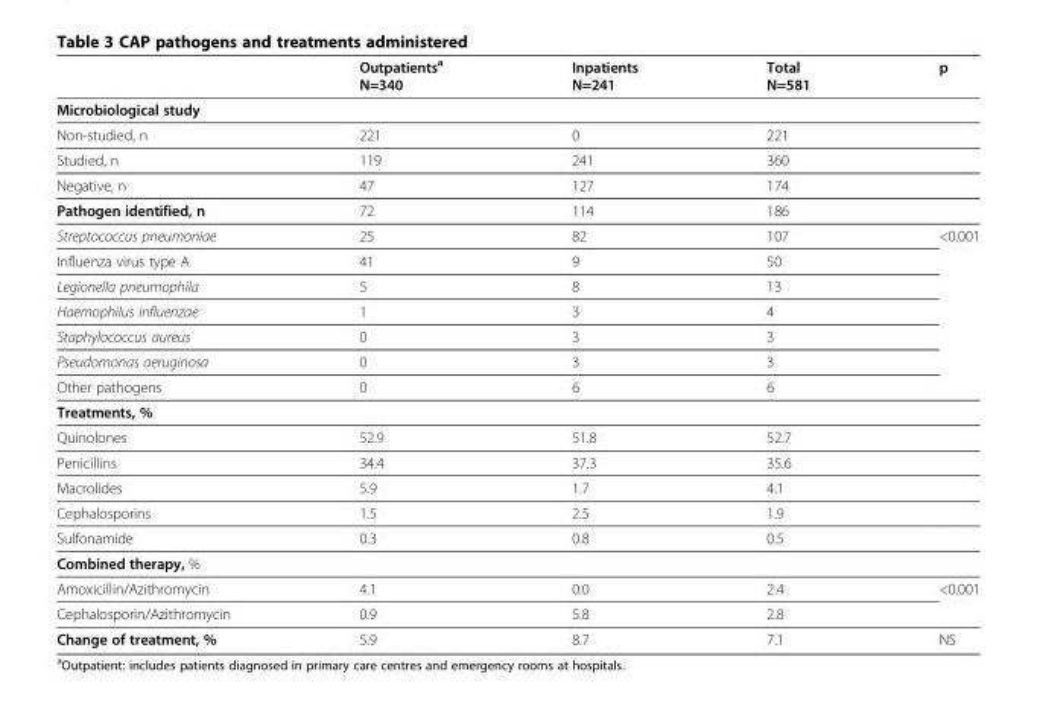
<table><thead><tr><td></td><td>Outpatients<sup>a</sup> N=340</td><td>Inpatients N=241</td><td>Total N=581</td><td>p</td></tr></thead><tbody><tr><td colspan="5">Microbiological study</td></tr><tr><td>Non-studied, n</td><td>221</td><td>0</td><td>221</td><td></td></tr><tr><td>Studied, n</td><td>119</td><td>241</td><td>360</td><td></td></tr><tr><td>Negative, n</td><td>47</td><td>127</td><td>174</td><td></td></tr><tr><td>Pathogen identified, n</td><td>72</td><td>114</td><td>186</td><td></td></tr><tr><td>Streptococcus pneumoniae</td><td>25</td><td>82</td><td>107</td><td>&lt;0.001</td></tr><tr><td>Influenza virus type A</td><td>41</td><td>9</td><td>50</td><td></td></tr><tr><td>Legionella pneumophila</td><td>5</td><td>8</td><td>13</td><td></td></tr><tr><td>Haemophilus influenzae</td><td>1</td><td>3</td><td>4</td><td></td></tr><tr><td>Staphylococcus aureus</td><td>0</td><td>3</td><td>3</td><td></td></tr><tr><td>Pseudomonas aeruginosa</td><td>0</td><td>3</td><td>3</td><td></td></tr><tr><td>Other pathogens</td><td>0</td><td>6</td><td>6</td><td></td></tr><tr><td colspan="5">Treatments, %</td></tr><tr><td>Quinolones</td><td>52.9</td><td>51.8</td><td>52.7</td><td></td></tr><tr><td>Penicillins</td><td>34.4</td><td>37.3</td><td>35.6</td><td></td></tr><tr><td>Macrolides</td><td>5.9</td><td>1.7</td><td>4.1</td><td></td></tr><tr><td>Cephalosporins</td><td>1.5</td><td>2.5</td><td>1.9</td><td></td></tr><tr><td>Sulfonamide</td><td>0.3</td><td>0.8</td><td>0.5</td><td></td></tr><tr><td colspan="5">Combined therapy, %</td></tr><tr><td>Amoxicillin/Azithromycin</td><td>4.1</td><td>0.0</td><td>2.4</td><td>&lt;0.001</td></tr><tr><td>Cephalosporin/Azithromycin</td><td>0.9</td><td>5.8</td><td>2.8</td><td></td></tr><tr><td>Change of treatment, %</td><td>5.9</td><td>8.7</td><td>7.1</td><td>NS</td></tr></tbody></table>